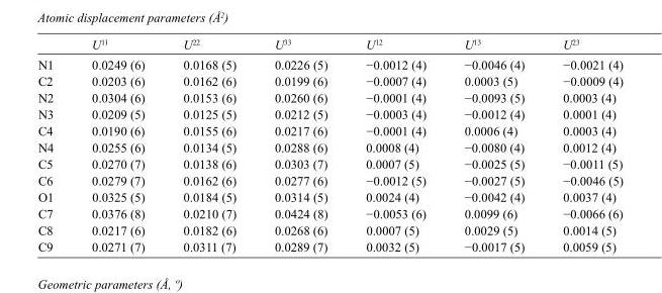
<table><thead><tr><td></td><td>U<sup>11</sup></td><td>U<sup>22</sup></td><td>U<sup>33</sup></td><td>U<sup>12</sup></td><td>U<sup>13</sup></td><td>U<sup>23</sup></td></tr></thead><tbody><tr><td>N1</td><td>0.0249 (6)</td><td>0.0168 (5)</td><td>0.0226 (5)</td><td>−0.0012 (4)</td><td>−0.0046 (4)</td><td>−0.0021 (4)</td></tr><tr><td>C2</td><td>0.0203 (6)</td><td>0.0162 (6)</td><td>0.0199 (6)</td><td>−0.0007 (4)</td><td>0.0003 (5)</td><td>−0.0009 (4)</td></tr><tr><td>N2</td><td>0.0304 (6)</td><td>0.0153 (6)</td><td>0.0260 (6)</td><td>−0.0001 (4)</td><td>−0.0093 (5)</td><td>0.0003 (4)</td></tr><tr><td>N3</td><td>0.0209 (5)</td><td>0.0125 (5)</td><td>0.0212 (5)</td><td>−0.0003 (4)</td><td>−0.0012 (4)</td><td>0.0001 (4)</td></tr><tr><td>C4</td><td>0.0190 (6)</td><td>0.0155 (6)</td><td>0.0217 (6)</td><td>−0.0001 (4)</td><td>0.0006 (4)</td><td>0.0003 (4)</td></tr><tr><td>N4</td><td>0.0255 (6)</td><td>0.0134 (5)</td><td>0.0288 (6)</td><td>0.0008 (4)</td><td>−0.0080 (4)</td><td>0.0012 (4)</td></tr><tr><td>C5</td><td>0.0270 (7)</td><td>0.0138 (6)</td><td>0.0303 (7)</td><td>0.0007 (5)</td><td>−0.0025 (5)</td><td>−0.0011 (5)</td></tr><tr><td>C6</td><td>0.0279 (7)</td><td>0.0162 (6)</td><td>0.0277 (6)</td><td>−0.0012 (5)</td><td>−0.0027 (5)</td><td>−0.0046 (5)</td></tr><tr><td>O1</td><td>0.0325 (5)</td><td>0.0184 (5)</td><td>0.0314 (5)</td><td>0.0024 (4)</td><td>−0.0042 (4)</td><td>0.0037 (4)</td></tr><tr><td>C7</td><td>0.0376 (8)</td><td>0.0210 (7)</td><td>0.0424 (8)</td><td>−0.0053 (6)</td><td>0.0099 (6)</td><td>−0.0066 (6)</td></tr><tr><td>C8</td><td>0.0217 (6)</td><td>0.0182 (6)</td><td>0.0268 (6)</td><td>0.0007 (5)</td><td>0.0029 (5)</td><td>0.0014 (5)</td></tr><tr><td>C9</td><td>0.0271 (7)</td><td>0.0311 (7)</td><td>0.0289 (7)</td><td>0.0032 (5)</td><td>−0.0017 (5)</td><td>0.0059 (5)</td></tr></tbody></table>